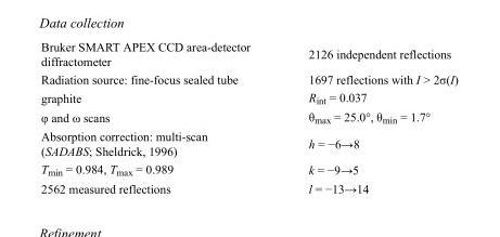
<table><tbody><tr><td>Bruker SMART APEX CCD area-detector diffractometer</td><td>2126 independent reflections</td></tr><tr><td>Radiation source: fine-focus sealed tube</td><td>1697 reflections with I &gt; 2σ(I)</td></tr><tr><td>graphite</td><td>R<sub>int</sub> = 0.037</td></tr><tr><td>φ and ω scans</td><td>θ<sub>max</sub> = 25.0°, θ<sub>min</sub> = 1.7°</td></tr><tr><td>Absorption correction: multi-scan (SADABS; Sheldrick, 1996)</td><td>h = −6→8</td></tr><tr><td>T<sub>min</sub> = 0.984, T<sub>max</sub> = 0.989</td><td>k = −9→5</td></tr><tr><td>2562 measured reflections</td><td>l = −13→14</td></tr></tbody></table>